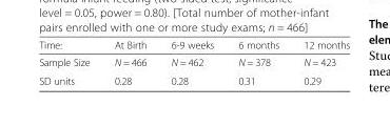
<table><thead><tr><td>Time:</td><td>At Birth</td><td>6-9 weeks</td><td>6 months</td><td>12 months</td></tr></thead><tbody><tr><td>Sample Size</td><td>N = 466</td><td>N = 462</td><td>N = 378</td><td>N = 423</td></tr><tr><td>SD units</td><td>0.28</td><td>0.28</td><td>0.31</td><td>0.29</td></tr></tbody></table>